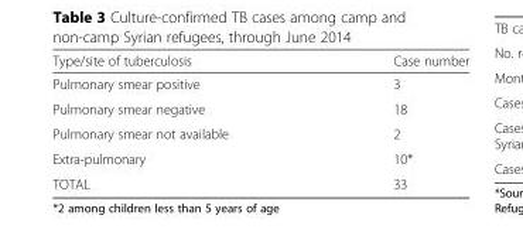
<table><thead><tr><td>Type/site of tuberculosis</td><td>Case number</td></tr></thead><tbody><tr><td>Pulmonary smear positive</td><td>3</td></tr><tr><td>Pulmonary smear negative</td><td>18</td></tr><tr><td>Pulmonary smear not available</td><td>2</td></tr><tr><td>Extra-pulmonary</td><td>10*</td></tr><tr><td>TOTAL</td><td>33</td></tr></tbody></table>